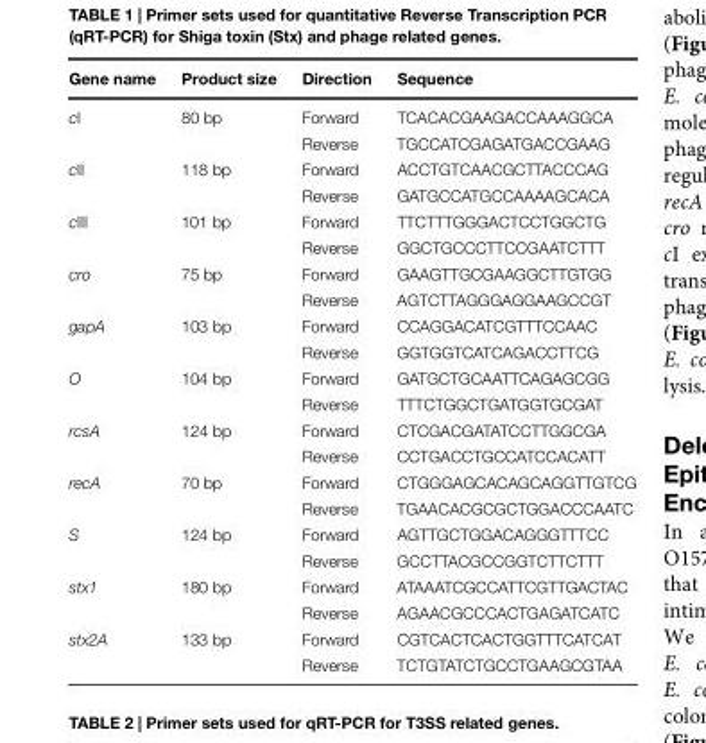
<table><thead><tr><td>Gene name</td><td>Product size</td><td>Direction</td><td>Sequence</td></tr></thead><tbody><tr><td rowspan="2">cI</td><td>80 bp</td><td>Forward</td><td>TCACACGAAGACCAAAGGCA</td></tr><tr><td></td><td>Reverse</td><td>TGCCATCGAGATGACCGAAG</td></tr><tr><td rowspan="2">cII</td><td>118 bp</td><td>Forward</td><td>ACCTGTCAACGCTTACCCAG</td></tr><tr><td></td><td>Reverse</td><td>GATGCCATGCCAAAAGCACA</td></tr><tr><td rowspan="2">cIII</td><td>101 bp</td><td>Forward</td><td>TTCTTTGGGACTCCTGGCTG</td></tr><tr><td></td><td>Reverse</td><td>GGCTGCCCTTCCGAATCTTT</td></tr><tr><td rowspan="2">cro</td><td>75 bp</td><td>Forward</td><td>GAAGTTGCGAAGGCTTGTGG</td></tr><tr><td></td><td>Reverse</td><td>AGTCTTAGGGAGGAAGCCGT</td></tr><tr><td rowspan="2">gapA</td><td>103 bp</td><td>Forward</td><td>CCAGGACATCGTTTCCAAC</td></tr><tr><td></td><td>Reverse</td><td>GGTGGTCATCAGACCTTCG</td></tr><tr><td rowspan="2">O</td><td>104 bp</td><td>Forward</td><td>GATGCTGCAATTCAGAGCGG</td></tr><tr><td></td><td>Reverse</td><td>TTTCTGGCTGATGGTGCGAT</td></tr><tr><td rowspan="2">rcsA</td><td>124 bp</td><td>Forward</td><td>CTCGACGATATCCTTGGCGA</td></tr><tr><td></td><td>Reverse</td><td>CCTGACCTGCCATCCACATT</td></tr><tr><td rowspan="2">recA</td><td>70 bp</td><td>Forward</td><td>CTGGGAGCACAGCAGGTTGTCG</td></tr><tr><td></td><td>Reverse</td><td>TGAACACGCGCTGGACCCAATC</td></tr><tr><td rowspan="2">S</td><td>124 bp</td><td>Forward</td><td>AGTTGCTGGACAGGGTTTCC</td></tr><tr><td></td><td>Reverse</td><td>GCCTTACGCCGGTCTTCTTT</td></tr><tr><td rowspan="2">stx1</td><td>180 bp</td><td>Forward</td><td>ATAAATCGCCATTCGTTGACTAC</td></tr><tr><td></td><td>Reverse</td><td>AGAACGCCCACTGAGATCATC</td></tr><tr><td rowspan="2">stx2A</td><td>133 bp</td><td>Forward</td><td>CGTCACTCACTGGTTTCATCAT</td></tr><tr><td></td><td>Reverse</td><td>TCTGTATCTGCCTGAAGCGTAA</td></tr></tbody></table>